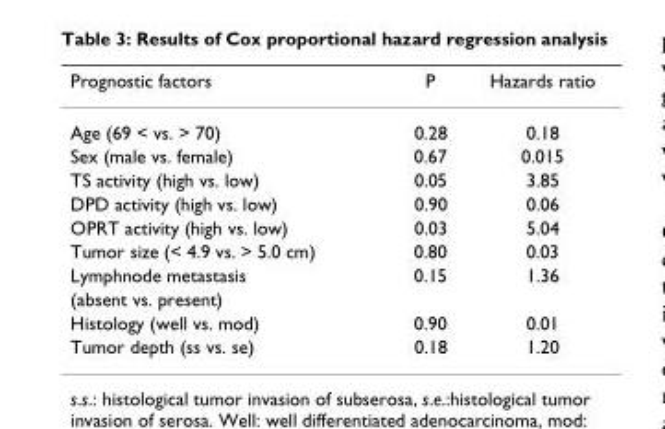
<table><thead><tr><td>Prognostic factors</td><td>P</td><td>Hazards ratio</td></tr></thead><tbody><tr><td>Age (69 &lt; vs. &gt; 70)</td><td>0.28</td><td>0.18</td></tr><tr><td>Sex (male vs. female)</td><td>0.67</td><td>0.015</td></tr><tr><td>TS activity (high vs. low)</td><td>0.05</td><td>3.85</td></tr><tr><td>DPD activity (high vs. low)</td><td>0.90</td><td>0.06</td></tr><tr><td>OPRT activity (high vs. low)</td><td>0.03</td><td>5.04</td></tr><tr><td>Tumor size (&lt; 4.9 vs. &gt; 5.0 cm)</td><td>0.80</td><td>0.03</td></tr><tr><td>Lymphnode metastasis</td><td>0.15</td><td>1.36</td></tr><tr><td colspan="3">(absent vs. present)</td></tr><tr><td>Histology (well vs. mod)</td><td>0.90</td><td>0.01</td></tr><tr><td>Tumor depth (ss vs. se)</td><td>0.18</td><td>1.20</td></tr></tbody></table>